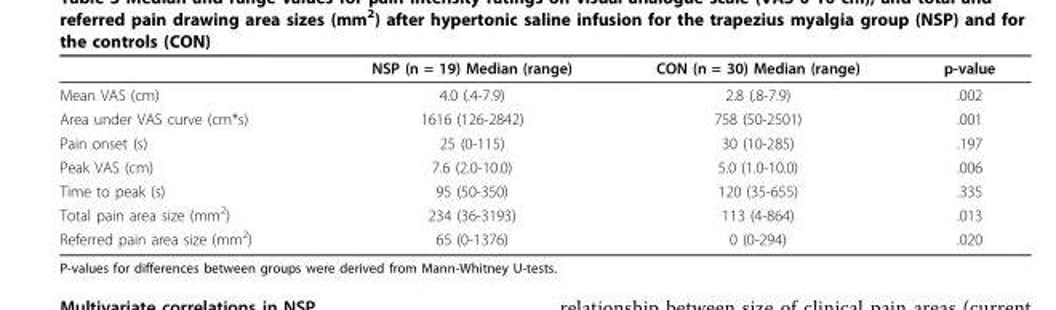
<table><thead><tr><td></td><td>NSP (n = 19) Median (range)</td><td>CON (n = 30) Median (range)</td><td>p-value</td></tr></thead><tbody><tr><td>Mean VAS (cm)</td><td>4.0 (.4-7.9)</td><td>2.8 (.8-7.9)</td><td>.002</td></tr><tr><td>Area under VAS curve (cm*s)</td><td>1616 (126-2842)</td><td>758 (50-2501)</td><td>.001</td></tr><tr><td>Pain onset (s)</td><td>25 (0-115)</td><td>30 (10-285)</td><td>.197</td></tr><tr><td>Peak VAS (cm)</td><td>7.6 (2.0-10.0)</td><td>5.0 (1.0-10.0)</td><td>.006</td></tr><tr><td>Time to peak (s)</td><td>95 (50-350)</td><td>120 (35-655)</td><td>.335</td></tr><tr><td>Total pain area size (mm<sup>2</sup>)</td><td>234 (36-3193)</td><td>113 (4-864)</td><td>.013</td></tr><tr><td>Referred pain area size (mm<sup>2</sup>)</td><td>65 (0-1376)</td><td>0 (0-294)</td><td>.020</td></tr></tbody></table>